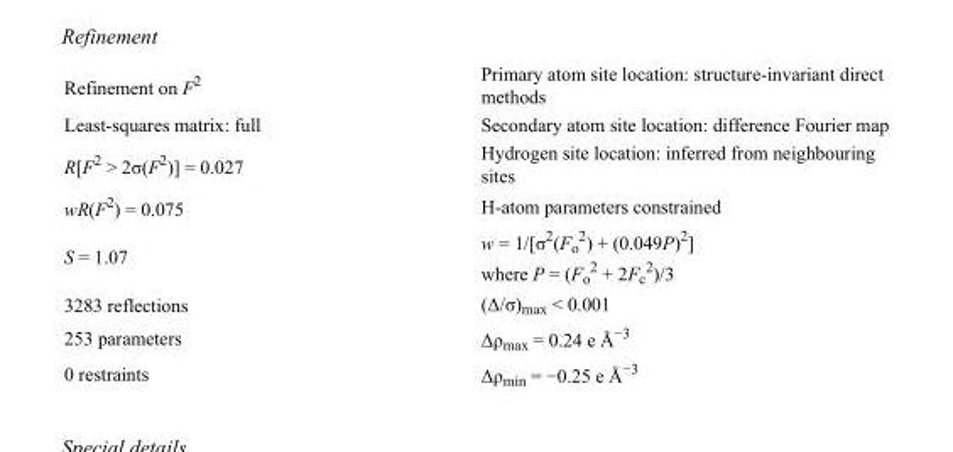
<table><tbody><tr><td>Refinement on F<sup>2</sup></td><td>Primary atom site location: structure-invariant direct methods</td></tr><tr><td>Least-squares matrix: full</td><td>Secondary atom site location: difference Fourier map</td></tr><tr><td>R[F<sup>2</sup> &gt; 2σ(F<sup>2</sup>)] = 0.027</td><td>Hydrogen site location: inferred from neighbouring sites</td></tr><tr><td>wR(F<sup>2</sup>) = 0.075</td><td>H-atom parameters constrained</td></tr><tr><td>S = 1.07</td><td>w = 1/[σ<sup>2</sup>(F<sub>o</sub> <sup>2</sup>) + (0.049P)<sup>2</sup>] where P = (F<sub>o</sub> <sup>2</sup> + 2F<sub>c</sub> <sup>2</sup>)/3</td></tr><tr><td>3283 reflections</td><td>(Δ/σ)<sub>max</sub> &lt; 0.001</td></tr><tr><td>253 parameters</td><td>Δρ<sub>max</sub> = 0.24 e Å<sup>−3</sup></td></tr><tr><td>0 restraints</td><td>Δρ<sub>min</sub> = −0.25 e Å<sup>−3</sup></td></tr></tbody></table>